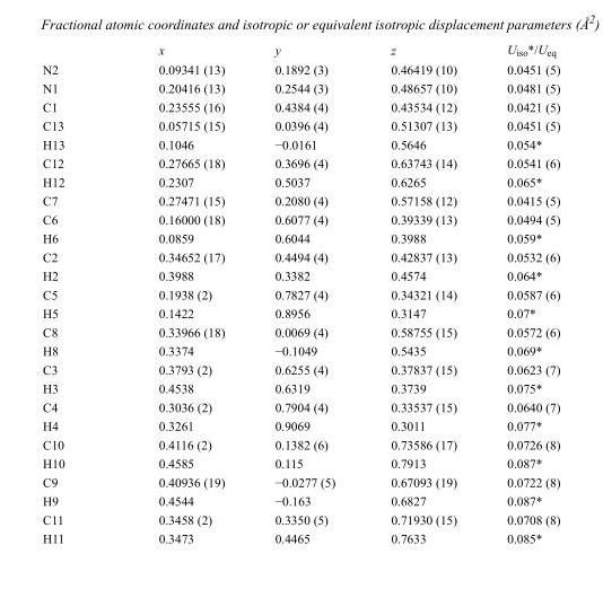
<table><thead><tr><td></td><td>x</td><td>y</td><td>z</td><td>U<sub>iso</sub>*/U<sub>eq</sub></td></tr></thead><tbody><tr><td>N2</td><td>0.09341 (13)</td><td>0.1892 (3)</td><td>0.46419 (10)</td><td>0.0451 (5)</td></tr><tr><td>N1</td><td>0.20416 (13)</td><td>0.2544 (3)</td><td>0.48657 (10)</td><td>0.0481 (5)</td></tr><tr><td>C1</td><td>0.23555 (16)</td><td>0.4384 (4)</td><td>0.43534 (12)</td><td>0.0421 (5)</td></tr><tr><td>C13</td><td>0.05715 (15)</td><td>0.0396 (4)</td><td>0.51307 (13)</td><td>0.0451 (5)</td></tr><tr><td>H13</td><td>0.1046</td><td>−0.0161</td><td>0.5646</td><td>0.054*</td></tr><tr><td>C12</td><td>0.27665 (18)</td><td>0.3696 (4)</td><td>0.63743 (14)</td><td>0.0541 (6)</td></tr><tr><td>H12</td><td>0.2307</td><td>0.5037</td><td>0.6265</td><td>0.065*</td></tr><tr><td>C7</td><td>0.27471 (15)</td><td>0.2080 (4)</td><td>0.57158 (12)</td><td>0.0415 (5)</td></tr><tr><td>C6</td><td>0.16000 (18)</td><td>0.6077 (4)</td><td>0.39339 (13)</td><td>0.0494 (5)</td></tr><tr><td>H6</td><td>0.0859</td><td>0.6044</td><td>0.3988</td><td>0.059*</td></tr><tr><td>C2</td><td>0.34652 (17)</td><td>0.4494 (4)</td><td>0.42837 (13)</td><td>0.0532 (6)</td></tr><tr><td>H2</td><td>0.3988</td><td>0.3382</td><td>0.4574</td><td>0.064*</td></tr><tr><td>C5</td><td>0.1938 (2)</td><td>0.7827 (4)</td><td>0.34321 (14)</td><td>0.0587 (6)</td></tr><tr><td>H5</td><td>0.1422</td><td>0.8956</td><td>0.3147</td><td>0.07*</td></tr><tr><td>C8</td><td>0.33966 (18)</td><td>0.0069 (4)</td><td>0.58755 (15)</td><td>0.0572 (6)</td></tr><tr><td>H8</td><td>0.3374</td><td>−0.1049</td><td>0.5435</td><td>0.069*</td></tr><tr><td>C3</td><td>0.3793 (2)</td><td>0.6255 (4)</td><td>0.37837 (15)</td><td>0.0623 (7)</td></tr><tr><td>H3</td><td>0.4538</td><td>0.6319</td><td>0.3739</td><td>0.075*</td></tr><tr><td>C4</td><td>0.3036 (2)</td><td>0.7904 (4)</td><td>0.33537 (15)</td><td>0.0640 (7)</td></tr><tr><td>H4</td><td>0.3261</td><td>0.9069</td><td>0.3011</td><td>0.077*</td></tr><tr><td>C10</td><td>0.4116 (2)</td><td>0.1382 (6)</td><td>0.73586 (17)</td><td>0.0726 (8)</td></tr><tr><td>H10</td><td>0.4585</td><td>0.115</td><td>0.7913</td><td>0.087*</td></tr><tr><td>C9</td><td>0.40936 (19)</td><td>−0.0277 (5)</td><td>0.67093 (19)</td><td>0.0722 (8)</td></tr><tr><td>H9</td><td>0.4544</td><td>−0.163</td><td>0.6827</td><td>0.087*</td></tr><tr><td>C11</td><td>0.3458 (2)</td><td>0.3350 (5)</td><td>0.71930 (15)</td><td>0.0708 (8)</td></tr><tr><td>H11</td><td>0.3473</td><td>0.4465</td><td>0.7633</td><td>0.085*</td></tr></tbody></table>